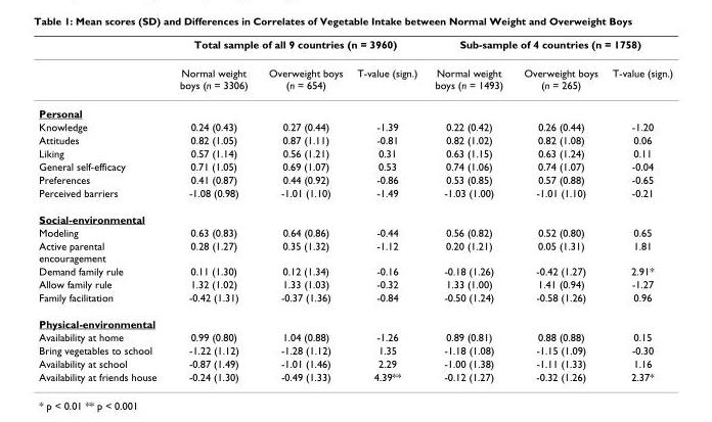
<table><thead><tr><td rowspan="2"></td><td colspan="3">Total sample of all 9 countries (n = 3960)</td><td colspan="3">Sub-sample of 4 countries (n = 1758)</td></tr><tr><td>Normal weight boys (n = 3306)</td><td>Overweight boys (n = 654)</td><td>T-value (sign.)</td><td>Normal weight boys (n = 1493)</td><td>Overweight boys (n = 265)</td><td>T-value (sign.)</td></tr></thead><tbody><tr><td colspan="7">Personal</td></tr><tr><td>Knowledge</td><td>0.24 (0.43)</td><td>0.27 (0.44)</td><td>-1.39</td><td>0.22 (0.42)</td><td>0.26 (0.44)</td><td>-1.20</td></tr><tr><td>Attitudes</td><td>0.82 (1.05)</td><td>0.87 (1.11)</td><td>-0.81</td><td>0.82 (1.02)</td><td>0.82 (1.08)</td><td>0.06</td></tr><tr><td>Liking</td><td>0.57 (1.14)</td><td>0.56 (1.21)</td><td>0.31</td><td>0.63 (1.15)</td><td>0.63 (1.24)</td><td>0.11</td></tr><tr><td>General self-efficacy</td><td>0.71 (1.05)</td><td>0.69 (1.07)</td><td>0.53</td><td>0.74 (1.06)</td><td>0.74 (1.07)</td><td>-0.04</td></tr><tr><td>Preferences</td><td>0.41 (0.87)</td><td>0.44 (0.92)</td><td>-0.86</td><td>0.53 (0.85)</td><td>0.57 (0.88)</td><td>-0.65</td></tr><tr><td>Perceived barriers</td><td>-1.08 (0.98)</td><td>-1.01 (1.10)</td><td>-1.49</td><td>-1.03 (1.00)</td><td>-1.01 (1.10)</td><td>-0.21</td></tr><tr><td colspan="7">Social-environmental</td></tr><tr><td>Modeling</td><td>0.63 (0.83)</td><td>0.64 (0.86)</td><td>-0.44</td><td>0.56 (0.82)</td><td>0.52 (0.80)</td><td>0.65</td></tr><tr><td>Active parental encouragement</td><td>0.28 (1.27)</td><td>0.35 (1.32)</td><td>-1.12</td><td>0.20 (1.21)</td><td>0.05 (1.31)</td><td>1.81</td></tr><tr><td>Demand family rule</td><td>0.11 (1.30)</td><td>0.12 (1.34)</td><td>-0.16</td><td>-0.18 (1.26)</td><td>-0.42 (1.27)</td><td>2.91*</td></tr><tr><td>Allow family rule</td><td>1.32 (1.02)</td><td>1.33 (1.03)</td><td>-0.32</td><td>1.33 (1.00)</td><td>1.41 (0.94)</td><td>-1.27</td></tr><tr><td>Family facilitation</td><td>-0.42 (1.31)</td><td>-0.37 (1.36)</td><td>-0.84</td><td>-0.50 (1.24)</td><td>-0.58 (1.26)</td><td>0.96</td></tr><tr><td colspan="7">Physical-environmental</td></tr><tr><td>Availability at home</td><td>0.99 (0.80)</td><td>1.04 (0.88)</td><td>-1.26</td><td>0.89 (0.81)</td><td>0.88 (0.88)</td><td>0.15</td></tr><tr><td>Bring vegetables to school</td><td>-1.22 (1.12)</td><td>-1.28 (1.12)</td><td>1.35</td><td>-1.18 (1.08)</td><td>-1.15 (1.09)</td><td>-0.30</td></tr><tr><td>Availability at school</td><td>-0.87 (1.49)</td><td>-1.01 (1.46)</td><td>2.29</td><td>-1.00 (1.38)</td><td>-1.11 (1.33)</td><td>1.16</td></tr><tr><td>Availability at friends house</td><td>-0.24 (1.30)</td><td>-0.49 (1.33)</td><td>4.39**</td><td>-0.12 (1.27)</td><td>-0.32 (1.26)</td><td>2.37*</td></tr></tbody></table>